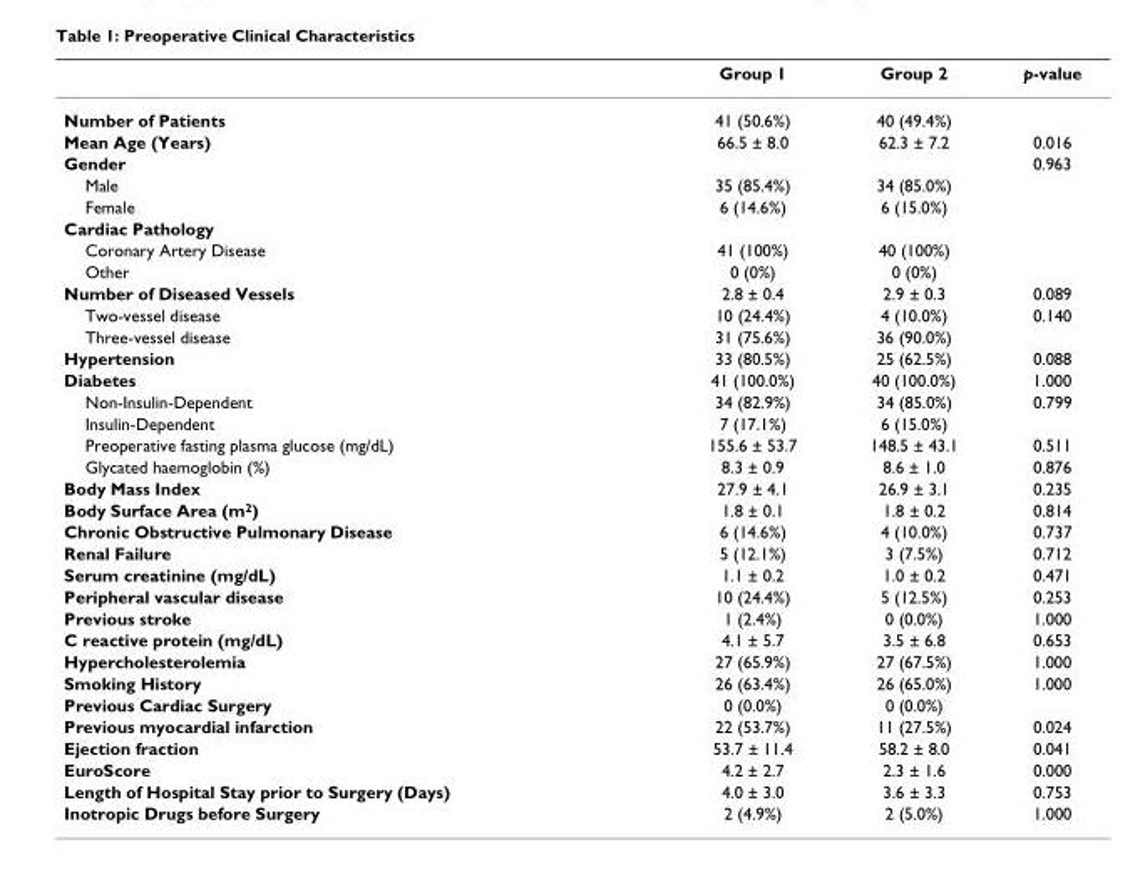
<table><thead><tr><td></td><td>Group 1</td><td>Group 2</td><td>p-value</td></tr></thead><tbody><tr><td>Number of Patients</td><td>41 (50.6%)</td><td>40 (49.4%)</td><td></td></tr><tr><td>Mean Age (Years)</td><td>66.5 ± 8.0</td><td>62.3 ± 7.2</td><td>0.016</td></tr><tr><td>Gender</td><td></td><td></td><td>0.963</td></tr><tr><td>Male</td><td>35 (85.4%)</td><td>34 (85.0%)</td><td></td></tr><tr><td>Female</td><td>6 (14.6%)</td><td>6 (15.0%)</td><td></td></tr><tr><td colspan="4">Cardiac Pathology</td></tr><tr><td>Coronary Artery Disease</td><td>41 (100%)</td><td>40 (100%)</td><td></td></tr><tr><td>Other</td><td>0 (0%)</td><td>0 (0%)</td><td></td></tr><tr><td>Number of Diseased Vessels</td><td>2.8 ± 0.4</td><td>2.9 ± 0.3</td><td>0.089</td></tr><tr><td>Two-vessel disease</td><td>10 (24.4%)</td><td>4 (10.0%)</td><td>0.140</td></tr><tr><td>Three-vessel disease</td><td>31 (75.6%)</td><td>36 (90.0%)</td><td></td></tr><tr><td>Hypertension</td><td>33 (80.5%)</td><td>25 (62.5%)</td><td>0.088</td></tr><tr><td>Diabetes</td><td>41 (100.0%)</td><td>40 (100.0%)</td><td>1.000</td></tr><tr><td>Non-Insulin-Dependent</td><td>34 (82.9%)</td><td>34 (85.0%)</td><td>0.799</td></tr><tr><td>Insulin-Dependent</td><td>7 (17.1%)</td><td>6 (15.0%)</td><td></td></tr><tr><td>Preoperative fasting plasma glucose (mg/dL)</td><td>155.6 ± 53.7</td><td>148.5 ± 43.1</td><td>0.511</td></tr><tr><td>Glycated haemoglobin (%)</td><td>8.3 ± 0.9</td><td>8.6 ± 1.0</td><td>0.876</td></tr><tr><td>Body Mass Index</td><td>27.9 ± 4.1</td><td>26.9 ± 3.1</td><td>0.235</td></tr><tr><td>Body Surface Area (m<sup>2</sup>)</td><td>1.8 ± 0.1</td><td>1.8 ± 0.2</td><td>0.814</td></tr><tr><td>Chronic Obstructive Pulmonary Disease</td><td>6 (14.6%)</td><td>4 (10.0%)</td><td>0.737</td></tr><tr><td>Renal Failure</td><td>5 (12.1%)</td><td>3 (7.5%)</td><td>0.712</td></tr><tr><td>Serum creatinine (mg/dL)</td><td>1.1 ± 0.2</td><td>1.0 ± 0.2</td><td>0.471</td></tr><tr><td>Peripheral vascular disease</td><td>10 (24.4%)</td><td>5 (12.5%)</td><td>0.253</td></tr><tr><td>Previous stroke</td><td>1 (2.4%)</td><td>0 (0.0%)</td><td>1.000</td></tr><tr><td>C reactive protein (mg/dL)</td><td>4.1 ± 5.7</td><td>3.5 ± 6.8</td><td>0.653</td></tr><tr><td>Hypercholesterolemia</td><td>27 (65.9%)</td><td>27 (67.5%)</td><td>1.000</td></tr><tr><td>Smoking History</td><td>26 (63.4%)</td><td>26 (65.0%)</td><td>1.000</td></tr><tr><td>Previous Cardiac Surgery</td><td>0 (0.0%)</td><td>0 (0.0%)</td><td></td></tr><tr><td>Previous myocardial infarction</td><td>22 (53.7%)</td><td>11 (27.5%)</td><td>0.024</td></tr><tr><td>Ejection fraction</td><td>53.7 ± 11.4</td><td>58.2 ± 8.0</td><td>0.041</td></tr><tr><td>EuroScore</td><td>4.2 ± 2.7</td><td>2.3 ± 1.6</td><td>0.000</td></tr><tr><td>Length of Hospital Stay prior to Surgery (Days)</td><td>4.0 ± 3.0</td><td>3.6 ± 3.3</td><td>0.753</td></tr><tr><td>Inotropic Drugs before Surgery</td><td>2 (4.9%)</td><td>2 (5.0%)</td><td>1.000</td></tr></tbody></table>